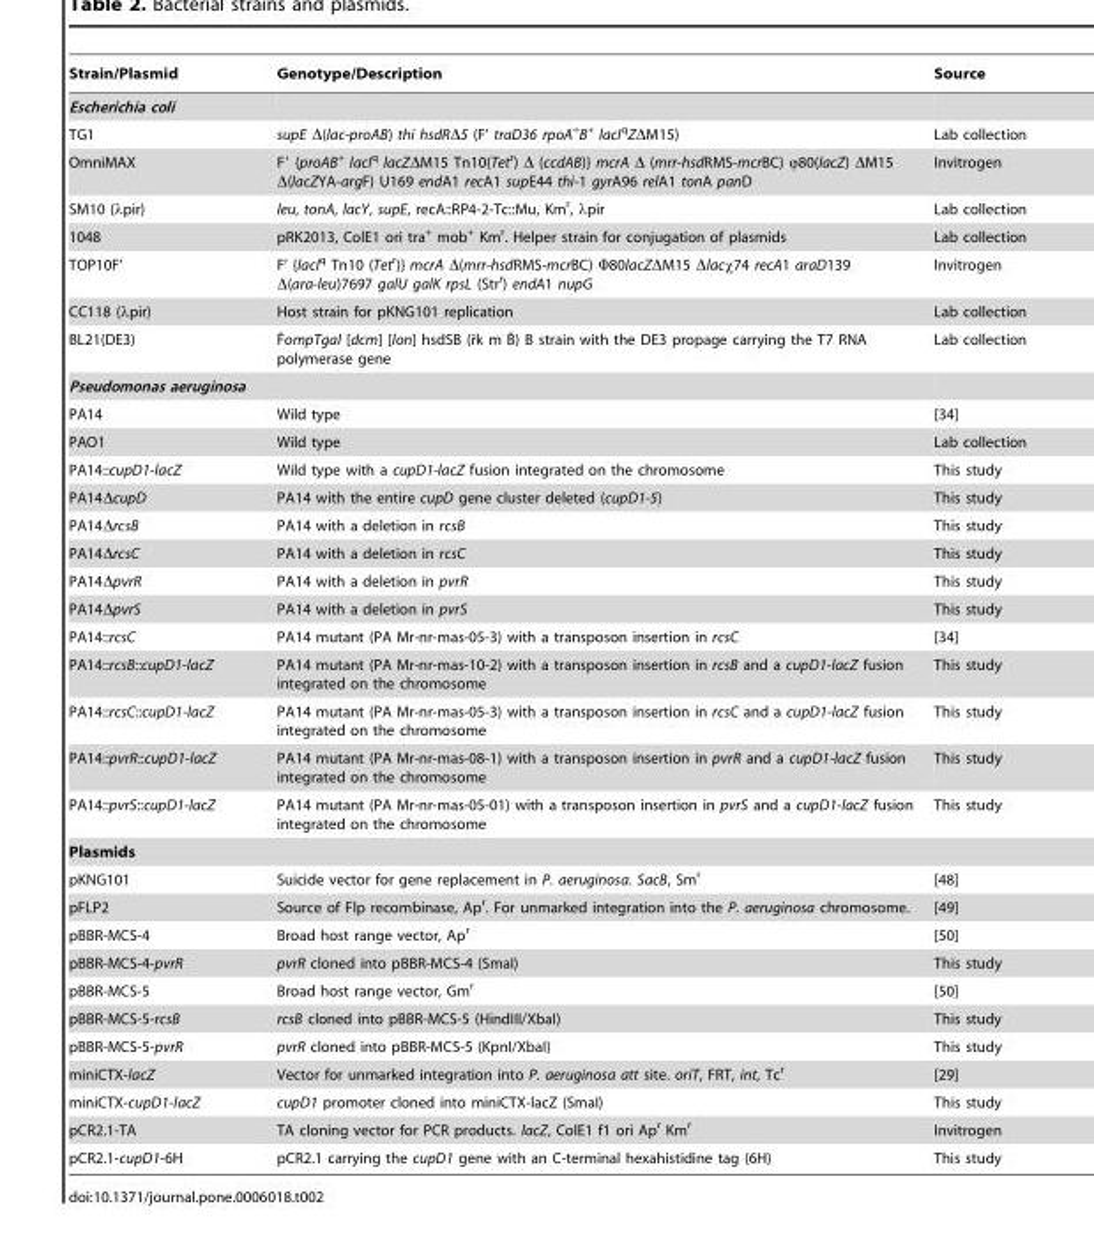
<table><thead><tr><td>Strain/Plasmid</td><td>Genotype/Description</td><td>Source</td></tr></thead><tbody><tr><td colspan="3">Escherichia coli</td></tr><tr><td>TG1</td><td>supE Δ(lac-proAB) thi hsdRΔ5 (F’ traD36 rpoA<sup>+</sup>B<sup>+</sup> lacI<sup>q</sup>ZΔM15)</td><td>Lab collection</td></tr><tr><td>OmniMAX</td><td>F′ {proAB<sup>+</sup> lacI<sup>q</sup> lacZΔM15 Tn10(Tet<sup>r</sup>) Δ (ccdAB)} mcrA Δ (mrr-hsdRMS-mcrBC) ϕ80(lacZ) ΔM15 Δ(lacZYA-argF) U169 endA1 recA1 supE44 thi-1 gyrA96 relA1 tonA panD</td><td>Invitrogen</td></tr><tr><td>SM10 (λpir)</td><td>leu, tonA, lacY, supE, recA::RP4-2-Tc::Mu, Km<sup>r</sup>, λpir</td><td>Lab collection</td></tr><tr><td>1048</td><td>pRK2013, ColE1 ori tra<sup>+</sup> mob<sup>+</sup> Km<sup>r</sup>. Helper strain for conjugation of plasmids</td><td>Lab collection</td></tr><tr><td>TOP10F’</td><td>F’ {lacI<sup>q</sup> Tn10 (Tet<sup>r</sup>)} mcrA Δ(mrr-hsdRMS-mcrBC) Φ80lacZΔM15 Δlacχ74 recA1 araD139 Δ(ara-leu)7697 galU galK rpsL (Str<sup>r</sup>) endA1 nupG</td><td>Invitrogen</td></tr><tr><td>CC118 (λpir)</td><td>Host strain for pKNG101 replication</td><td>Lab collection</td></tr><tr><td>BL21(DE3)</td><td>F¯ompTgal [dcm] [lon] hsdSB (r¯k m B¯) B strain with the DE3 propage carrying the T7 RNA polymerase gene</td><td>Lab collection</td></tr><tr><td colspan="3">Pseudomonas aeruginosa</td></tr><tr><td>PA14</td><td>Wild type</td><td>[34]</td></tr><tr><td>PAO1</td><td>Wild type</td><td>Lab collection</td></tr><tr><td>PA14::cupD1-lacZ</td><td>Wild type with a cupD1-lacZ fusion integrated on the chromosome</td><td>This study</td></tr><tr><td>PA14ΔcupD</td><td>PA14 with the entire cupD gene cluster deleted (cupD1-5)</td><td>This study</td></tr><tr><td>PA14ΔrcsB</td><td>PA14 with a deletion in rcsB</td><td>This study</td></tr><tr><td>PA14ΔrcsC</td><td>PA14 with a deletion in rcsC</td><td>This study</td></tr><tr><td>PA14ΔpvrR</td><td>PA14 with a deletion in pvrR</td><td>This study</td></tr><tr><td>PA14ΔpvrS</td><td>PA14 with a deletion in pvrS</td><td>This study</td></tr><tr><td>PA14::rcsC</td><td>PA14 mutant (PA Mr-nr-mas-05-3) with a transposon insertion in rcsC</td><td>[34]</td></tr><tr><td>PA14::rcsB::cupD1-lacZ</td><td>PA14 mutant (PA Mr-nr-mas-10-2) with a transposon insertion in rcsB and a cupD1-lacZ fusion integrated on the chromosome</td><td>This study</td></tr><tr><td>PA14::rcsC::cupD1-lacZ</td><td>PA14 mutant (PA Mr-nr-mas-05-3) with a transposon insertion in rcsC and a cupD1-lacZ fusion integrated on the chromosome</td><td>This study</td></tr><tr><td>PA14::pvrR::cupD1-lacZ</td><td>PA14 mutant (PA Mr-nr-mas-08-1) with a transposon insertion in pvrR and a cupD1-lacZ fusion integrated on the chromosome</td><td>This study</td></tr><tr><td>PA14::pvrS::cupD1-lacZ</td><td>PA14 mutant (PA Mr-nr-mas-05-01) with a transposon insertion in pvrS and a cupD1-lacZ fusion integrated on the chromosome</td><td>This study</td></tr><tr><td colspan="3">Plasmids</td></tr><tr><td>pKNG101</td><td>Suicide vector for gene replacement in P. aeruginosa. SacB, Sm<sup>r</sup></td><td>[48]</td></tr><tr><td>pFLP2</td><td>Source of Flp recombinase, Ap<sup>r</sup>. For unmarked integration into the P. aeruginosa chromosome.</td><td>[49]</td></tr><tr><td>pBBR-MCS-4</td><td>Broad host range vector, Ap<sup>r</sup></td><td>[50]</td></tr><tr><td>pBBR-MCS-4-pvrR</td><td>pvrR cloned into pBBR-MCS-4 (SmaI)</td><td>This study</td></tr><tr><td>pBBR-MCS-5</td><td>Broad host range vector, Gm<sup>r</sup></td><td>[50]</td></tr><tr><td>pBBR-MCS-5-rcsB</td><td>rcsB cloned into pBBR-MCS-5 (HindIII/XbaI)</td><td>This study</td></tr><tr><td>pBBR-MCS-5-pvrR</td><td>pvrR cloned into pBBR-MCS-5 (KpnI/XbaI)</td><td>This study</td></tr><tr><td>miniCTX-lacZ</td><td>Vector for unmarked integration into P. aeruginosa att site. oriT, FRT, int, Tc<sup>r</sup></td><td>[29]</td></tr><tr><td>miniCTX-cupD1-lacZ</td><td>cupD1 promoter cloned into miniCTX-lacZ (SmaI)</td><td>This study</td></tr><tr><td>pCR2.1-TA</td><td>TA cloning vector for PCR products. lacZ, ColE1 f1 ori Ap<sup>r</sup> Km<sup>r</sup></td><td>Invitrogen</td></tr><tr><td>pCR2.1-cupD1-6H</td><td>pCR2.1 carrying the cupD1 gene with an C-terminal hexahistidine tag (6H)</td><td>This study</td></tr></tbody></table>